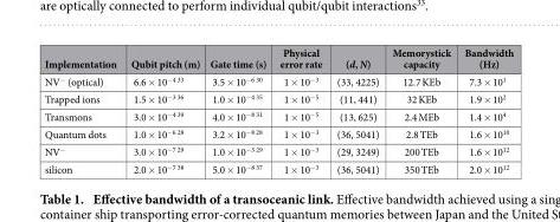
<table><thead><tr><td>Implementation</td><td>Qubit pitch (m)</td><td>Gate time (s)</td><td>Physical error rate</td><td>(d, N)</td><td>Memorystick capacity</td><td>Bandwidth (Hz)</td></tr></thead><tbody><tr><td>NV<sup>−</sup> (optical)</td><td>6.6 × 10<sup>−4</sup> 33</td><td>3.5 × 10<sup>−6</sup> 30</td><td>1 × 10<sup>−3</sup></td><td>(33, 4225)</td><td>12.7 KEb</td><td>7.3 × 10<sup>1</sup></td></tr><tr><td>Trapped ions</td><td>1.5 × 10<sup>−3</sup> 36</td><td>1.0 × 10<sup>−4</sup> 35</td><td>1 × 10<sup>−5</sup></td><td>(11, 441)</td><td>32 KEb</td><td>1.9 × 10<sup>2</sup></td></tr><tr><td>Transmons</td><td>3.0 × 10<sup>−4</sup> 39</td><td>4.0 × 10<sup>−8</sup> 31</td><td>1 × 10<sup>−5</sup></td><td>(13, 625)</td><td>2.4 MEb</td><td>1.4 × 10<sup>4</sup></td></tr><tr><td>Quantum dots</td><td>1.0 × 10<sup>−6</sup> 28</td><td>3.2 × 10<sup>−8</sup> 28</td><td>1 × 10<sup>−3</sup></td><td>(36, 5041)</td><td>2.8 TEb</td><td>1.6 × 10<sup>10</sup></td></tr><tr><td>NV<sup>−</sup></td><td>3.0 × 10<sup>−7</sup> 29</td><td>1.0 × 10<sup>−3</sup> 29</td><td>1 × 10<sup>−3</sup></td><td>(29, 3249)</td><td>200 TEb</td><td>1.6 × 10<sup>12</sup></td></tr><tr><td>silicon</td><td>2.0 × 10<sup>−7</sup> 38</td><td>5.0 × 10<sup>−8</sup> 37</td><td>1 × 10<sup>−3</sup></td><td>(36, 5041)</td><td>350 TEb</td><td>2.0 × 10<sup>12</sup></td></tr></tbody></table>